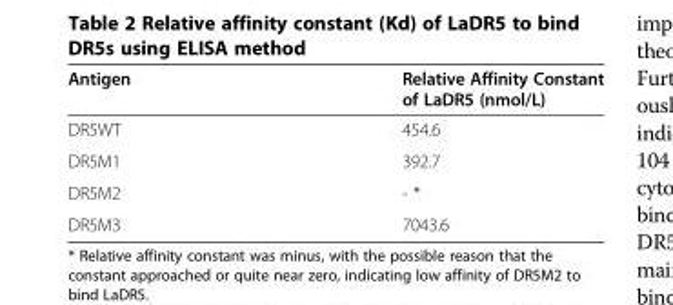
<table><thead><tr><td>Antigen</td><td>Relative Affinity Constant of LaDR5 (nmol/L)</td></tr></thead><tbody><tr><td>DR5WT</td><td>454.6</td></tr><tr><td>DR5M1</td><td>392.7</td></tr><tr><td>DR5M2</td><td>- *</td></tr><tr><td>DR5M3</td><td>7043.6</td></tr></tbody></table>